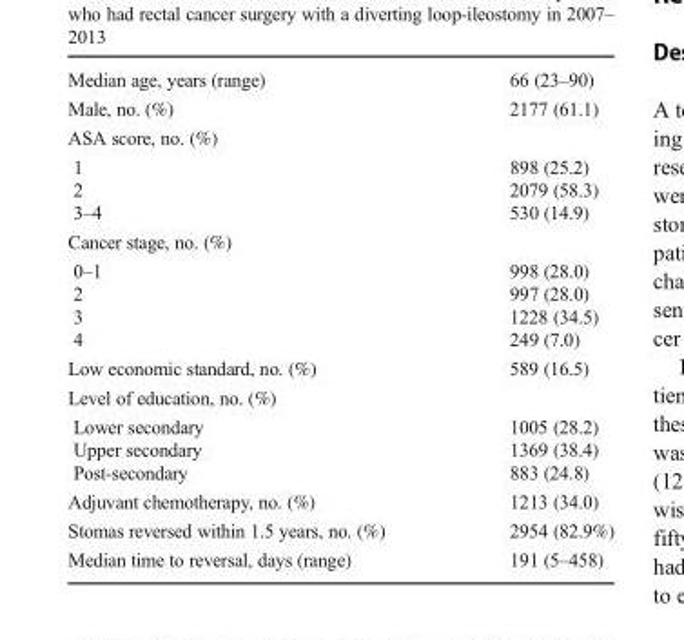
<table><tbody><tr><td>Median age, years (range)</td><td>66 (23–90)</td></tr><tr><td>Male, no. (%)</td><td>2177 (61.1)</td></tr><tr><td colspan="2">ASA score, no. (%)</td></tr><tr><td>1 2 3–4</td><td>898 (25.2) 2079 (58.3) 530 (14.9)</td></tr><tr><td colspan="2">Cancer stage, no. (%)</td></tr><tr><td>0–1 2 3 4</td><td>998 (28.0) 997 (28.0) 1228 (34.5) 249 (7.0)</td></tr><tr><td>Low economic standard, no. (%)</td><td>589 (16.5)</td></tr><tr><td colspan="2">Level of education, no. (%)</td></tr><tr><td>Lower secondary Upper secondary Post-secondary</td><td>1005 (28.2) 1369 (38.4) 883 (24.8)</td></tr><tr><td>Adjuvant chemotherapy, no. (%)</td><td>1213 (34.0)</td></tr><tr><td>Stomas reversed within 1.5 years, no. (%)</td><td>2954 (82.9%)</td></tr><tr><td>Median time to reversal, days (range)</td><td>191 (5–458)</td></tr></tbody></table>